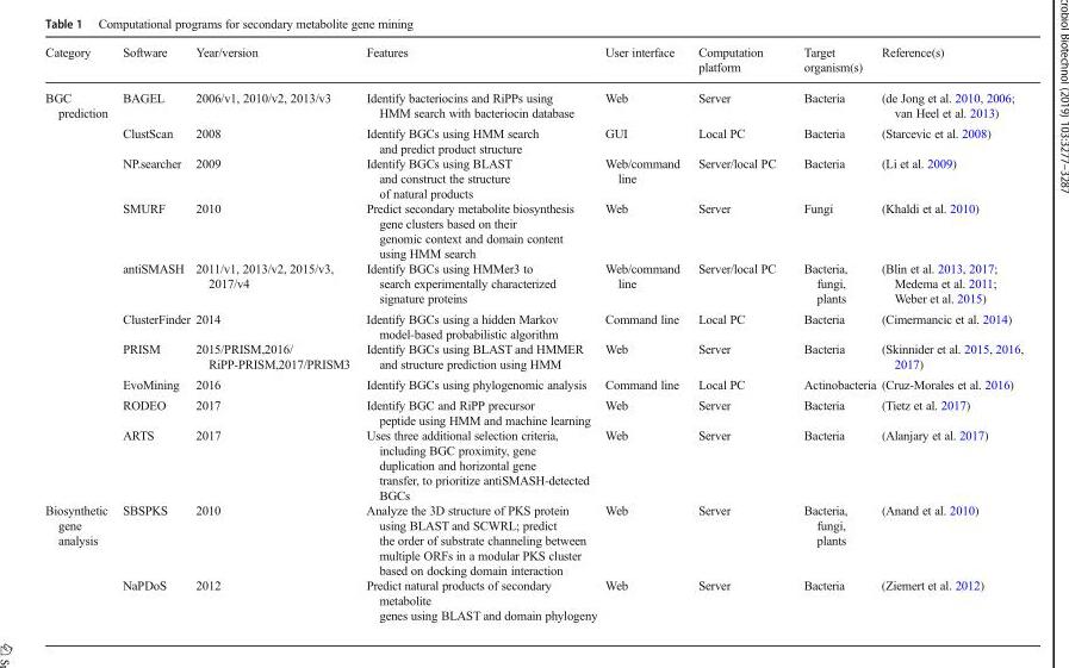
<table><thead><tr><td>Category</td><td>Software</td><td>Year/version</td><td>Features</td><td>User interface</td><td>Computation platform</td><td>Target organism(s)</td><td>Reference(s)</td></tr></thead><tbody><tr><td rowspan="10">BGC prediction</td><td>BAGEL</td><td>2006/v1, 2010/v2, 2013/v3</td><td>Identify bacteriocins and RiPPs using HMM search with bacteriocin database</td><td>Web</td><td>Server</td><td>Bacteria</td><td>(de Jong et al. 2010, 2006; van Heel et al. 2013)</td></tr><tr><td>ClustScan</td><td>2008</td><td>Identify BGCs using HMM search and predict product structure</td><td>GUI</td><td>Local PC</td><td>Bacteria</td><td>(Starcevic et al. 2008)</td></tr><tr><td>NP.searcher</td><td>2009</td><td>Identify BGCs using BLAST and construct the structure of natural products</td><td>Web/command line</td><td>Server/local PC</td><td>Bacteria</td><td>(Li et al. 2009)</td></tr><tr><td>SMURF</td><td>2010</td><td>Predict secondary metabolite biosynthesis gene clusters based on their genomic context and domain content using HMM search</td><td>Web</td><td>Server</td><td>Fungi</td><td>(Khaldi et al. 2010)</td></tr><tr><td>antiSMASH</td><td>2011/v1, 2013/v2, 2015/v3, 2017/v4</td><td>Identify BGCs using HMMer3 to search experimentally characterized signature proteins</td><td>Web/command line</td><td>Server/local PC</td><td>Bacteria, fungi, plants</td><td>(Blin et al. 2013, 2017; Medema et al. 2011; Weber et al. 2015)</td></tr><tr><td>ClusterFinder</td><td>2014</td><td>Identify BGCs using a hidden Markov model-based probabilistic algorithm</td><td>Command line</td><td>Local PC</td><td>Bacteria</td><td>(Cimermancic et al. 2014)</td></tr><tr><td>PRISM</td><td>2015/PRISM,2016/ RiPP-PRISM,2017/PRISM3</td><td>Identify BGCs using BLAST and HMMER and structure prediction using HMM</td><td>Web</td><td>Server</td><td>Bacteria</td><td>(Skinnider et al. 2015, 2016, 2017)</td></tr><tr><td>EvoMining</td><td>2016</td><td>Identify BGCs using phylogenomic analysis</td><td>Command line</td><td>Local PC</td><td>Actinobacteria</td><td>(Cruz-Morales et al. 2016)</td></tr><tr><td>RODEO</td><td>2017</td><td>Identify BGC and RiPP precursor peptide using HMM and machine learning</td><td>Web</td><td>Server</td><td>Bacteria</td><td>(Tietz et al. 2017)</td></tr><tr><td>ARTS</td><td>2017</td><td>Uses three additional selection criteria, including BGC proximity, gene duplication and horizontal gene transfer, to prioritize antiSMASH-detected BGCs</td><td>Web</td><td>Server</td><td>Bacteria</td><td>(Alanjary et al. 2017)</td></tr><tr><td rowspan="2">Biosynthetic gene analysis</td><td>SBSPKS</td><td>2010</td><td>Analyze the 3D structure of PKS protein using BLAST and SCWRL; predict the order of substrate channeling between multiple ORFs in a modular PKS cluster based on docking domain interaction</td><td>Web</td><td>Server</td><td>Bacteria, fungi, plants</td><td>(Anand et al. 2010)</td></tr><tr><td>NaPDoS</td><td>2012</td><td>Predict natural products of secondary metabolite genes using BLAST and domain phylogeny</td><td>Web</td><td>Server</td><td>Bacteria</td><td>(Ziemert et al. 2012)</td></tr></tbody></table>